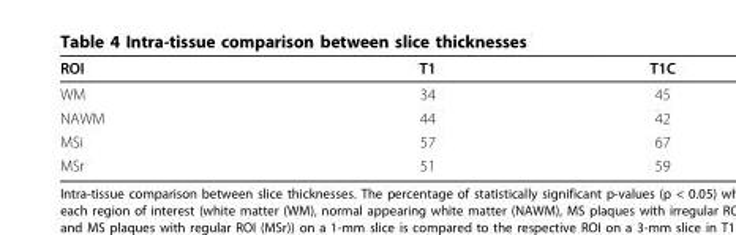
<table><thead><tr><td>ROI</td><td>T1</td><td>T1C</td></tr></thead><tbody><tr><td>WM</td><td>34</td><td>45</td></tr><tr><td>NAWM</td><td>44</td><td>42</td></tr><tr><td>MSi</td><td>57</td><td>67</td></tr><tr><td>MSr</td><td>51</td><td>59</td></tr></tbody></table>